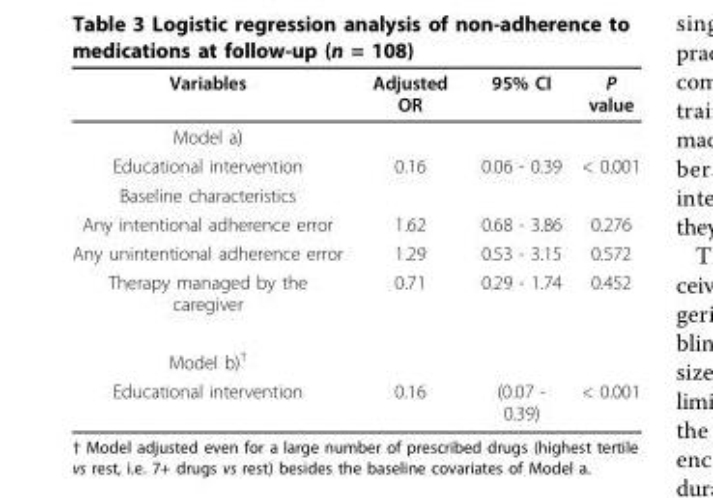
<table><thead><tr><td>Variables</td><td>Adjusted OR</td><td>95% CI</td><td>P value</td></tr></thead><tbody><tr><td colspan="4">Model a)</td></tr><tr><td>Educational intervention</td><td>0.16</td><td>0.06 - 0.39</td><td>&lt; 0.001</td></tr><tr><td colspan="4">Baseline characteristics</td></tr><tr><td>Any intentional adherence error</td><td>1.62</td><td>0.68 - 3.86</td><td>0.276</td></tr><tr><td>Any unintentional adherence error</td><td>1.29</td><td>0.53 - 3.15</td><td>0.572</td></tr><tr><td>Therapy managed by the caregiver</td><td>0.71</td><td>0.29 - 1.74</td><td>0.452</td></tr><tr><td colspan="4">Model b)<sup>†</sup></td></tr><tr><td>Educational intervention</td><td>0.16</td><td>(0.07 - 0.39)</td><td>&lt; 0.001</td></tr></tbody></table>